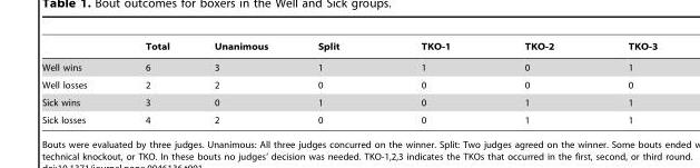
<table><thead><tr><td></td><td>Total</td><td>Unanimous</td><td>Split</td><td>TKO-1</td><td>TKO-2</td><td>TKO-3</td></tr></thead><tbody><tr><td>Well wins</td><td>6</td><td>3</td><td>1</td><td>1</td><td>0</td><td>1</td></tr><tr><td>Well losses</td><td>2</td><td>2</td><td>0</td><td>0</td><td>0</td><td>0</td></tr><tr><td>Sick wins</td><td>3</td><td>0</td><td>1</td><td>0</td><td>1</td><td>1</td></tr><tr><td>Sick losses</td><td>4</td><td>2</td><td>0</td><td>0</td><td>1</td><td>1</td></tr></tbody></table>